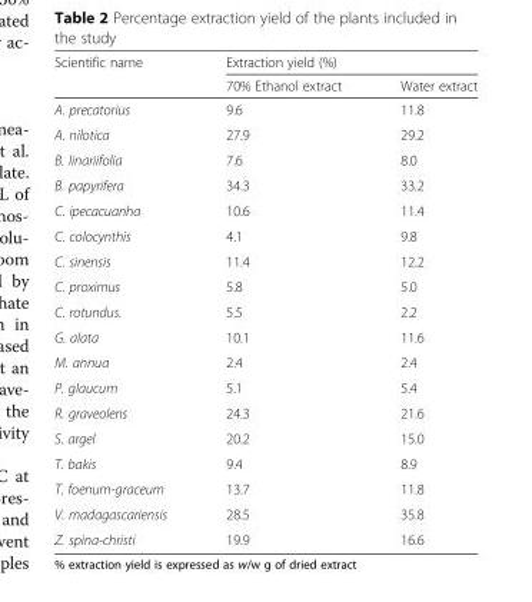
<table><thead><tr><td rowspan="2">Scientific name</td><td colspan="2">Extraction yield (%)</td></tr><tr><td>70% Ethanol extract</td><td>Water extract</td></tr></thead><tbody><tr><td>A. precatorius</td><td>9.6</td><td>11.8</td></tr><tr><td>A. nilotica</td><td>27.9</td><td>29.2</td></tr><tr><td>B. linariifolia</td><td>7.6</td><td>8.0</td></tr><tr><td>B. papyrifera</td><td>34.3</td><td>33.2</td></tr><tr><td>C. ipecacuanha</td><td>10.6</td><td>11.4</td></tr><tr><td>C. colocynthis</td><td>4.1</td><td>9.8</td></tr><tr><td>C. sinensis</td><td>11.4</td><td>12.2</td></tr><tr><td>C. proximus</td><td>5.8</td><td>5.0</td></tr><tr><td>C. rotundus.</td><td>5.5</td><td>2.2</td></tr><tr><td>G. alata</td><td>10.1</td><td>11.6</td></tr><tr><td>M. annua</td><td>2.4</td><td>2.4</td></tr><tr><td>P. glaucum</td><td>5.1</td><td>5.4</td></tr><tr><td>R. graveolens</td><td>24.3</td><td>21.6</td></tr><tr><td>S. argel</td><td>20.2</td><td>15.0</td></tr><tr><td>T. bakis</td><td>9.4</td><td>8.9</td></tr><tr><td>T. foenum-graceum</td><td>13.7</td><td>11.8</td></tr><tr><td>V. madagascariensis</td><td>28.5</td><td>35.8</td></tr><tr><td>Z. spina-christi</td><td>19.9</td><td>16.6</td></tr></tbody></table>